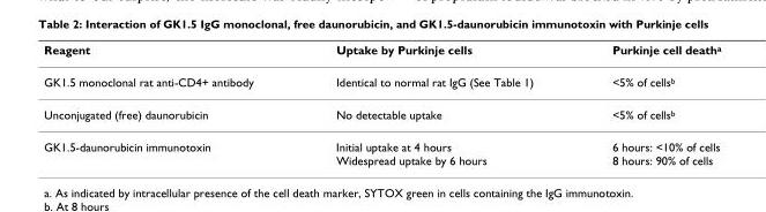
<table><thead><tr><td>Reagent</td><td>Uptake by Purkinje cells</td><td>Purkinje cell death<sup>a</sup></td></tr></thead><tbody><tr><td>GK1.5 monoclonal rat anti-CD4+ antibody</td><td>Identical to normal rat IgG (See Table 1)</td><td>&lt;5% of cells<sup>b</sup></td></tr><tr><td>Unconjugated (free) daunorubicin</td><td>No detectable uptake</td><td>&lt;5% of cells<sup>b</sup></td></tr><tr><td>GK1.5-daunorubicin immunotoxin</td><td>Initial uptake at 4 hours Widespread uptake by 6 hours</td><td>6 hours: &lt;10% of cells 8 hours: 90% of cells</td></tr></tbody></table>